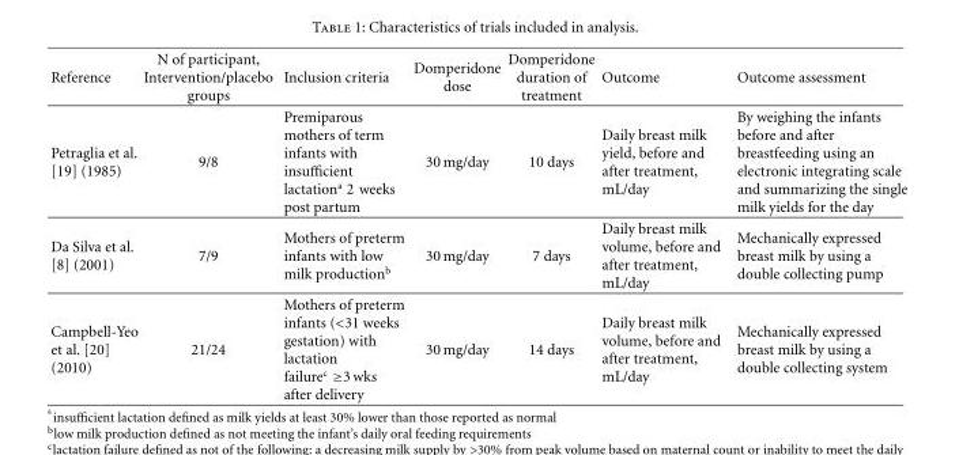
<table><thead><tr><td>Reference</td><td>N of participant, Intervention/placebo groups</td><td>Inclusion criteria</td><td>Domperidone dose</td><td>Domperidone duration of treatment</td><td>Outcome</td><td>Outcome assessment</td></tr></thead><tbody><tr><td>Petraglia et al. [19] (1985)</td><td>9/8</td><td>Premiparous mothers of term infants with insufficient lactation<sup>a</sup> 2 weeks post partum</td><td>30 mg/day</td><td>10 days</td><td>Daily breast milk yield, before and after treatment, mL/day</td><td>By weighing the infants before and after breastfeeding using an electronic integrating scale and summarizing the single milk yields for the day</td></tr><tr><td>Da Silva et al. [8] (2001)</td><td>7/9</td><td>Mothers of preterm infants with low milk production<sup>b</sup></td><td>30 mg/day</td><td>7 days</td><td>Daily breast milk volume, before and after treatment, mL/day</td><td>Mechanically expressed breast milk by using a double collecting pump</td></tr><tr><td>Campbell-Yeo et al. [20] (2010)</td><td>21/24</td><td>Mothers of preterm infants (&lt;31 weeks gestation) with lactation failure<sup>c</sup> ≥3 wks after delivery</td><td>30 mg/day</td><td>14 days</td><td>Daily breast milk volume, before and after treatment, mL/day</td><td>Mechanically expressed breast milk by using a double collecting system</td></tr></tbody></table>